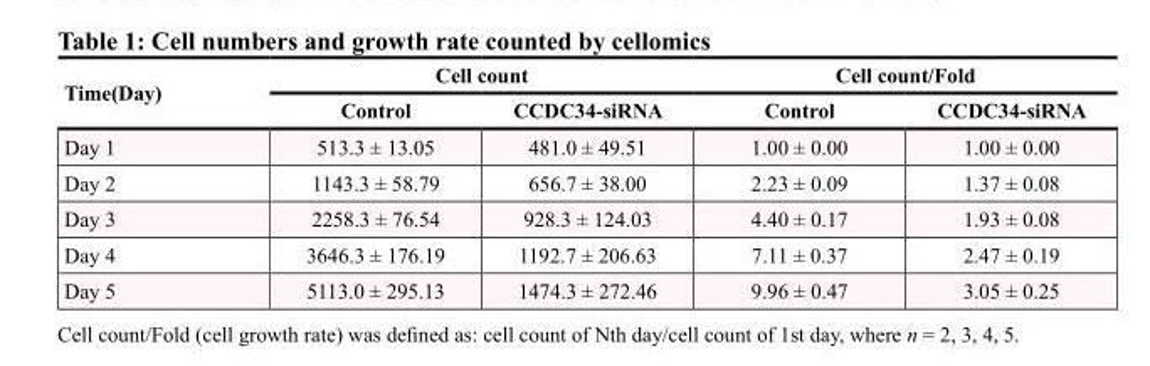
<table><thead><tr><td rowspan="2">Time(Day)</td><td colspan="2">Cell count</td><td colspan="2">Cell count/Fold</td></tr><tr><td>Control</td><td>CCDC34-siRNA</td><td>Control</td><td>CCDC34-siRNA</td></tr></thead><tbody><tr><td>Day 1</td><td>513.3 ± 13.05</td><td>481.0 ± 49.51</td><td>1.00 ± 0.00</td><td>1.00 ± 0.00</td></tr><tr><td>Day 2</td><td>1143.3 ± 58.79</td><td>656.7 ± 38.00</td><td>2.23 ± 0.09</td><td>1.37 ± 0.08</td></tr><tr><td>Day 3</td><td>2258.3 ± 76.54</td><td>928.3 ± 124.03</td><td>4.40 ± 0.17</td><td>1.93 ± 0.08</td></tr><tr><td>Day 4</td><td>3646.3 ± 176.19</td><td>1192.7 ± 206.63</td><td>7.11 ± 0.37</td><td>2.47 ± 0.19</td></tr><tr><td>Day 5</td><td>5113.0 ± 295.13</td><td>1474.3 ± 272.46</td><td>9.96 ± 0.47</td><td>3.05 ± 0.25</td></tr></tbody></table>